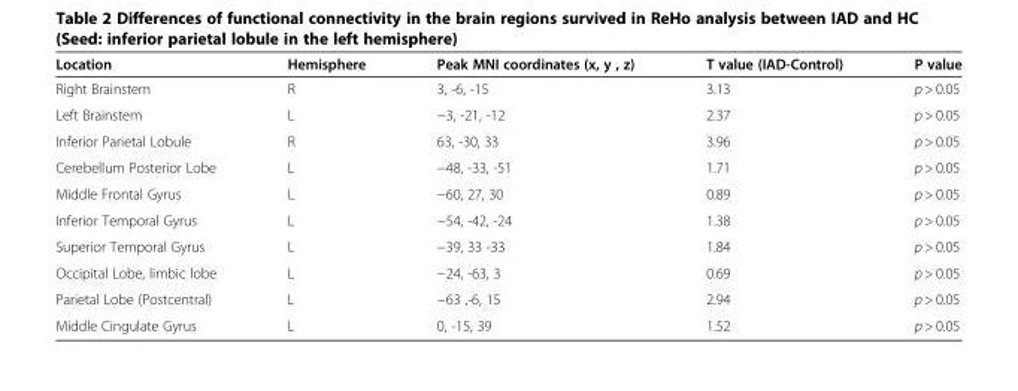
<table><thead><tr><td>Location</td><td>Hemisphere</td><td>Peak MNI coordinates (x, y , z)</td><td>T value (IAD-Control)</td><td>P value</td></tr></thead><tbody><tr><td>Right Brainstem</td><td>R</td><td>3, -6, -15</td><td>3.13</td><td>p &gt; 0.05</td></tr><tr><td>Left Brainstem</td><td>L</td><td>−3, -21, -12</td><td>2.37</td><td>p &gt; 0.05</td></tr><tr><td>Inferior Parietal Lobule</td><td>R</td><td>63, -30, 33</td><td>3.96</td><td>p &gt; 0.05</td></tr><tr><td>Cerebellum Posterior Lobe</td><td>L</td><td>−48, -33, -51</td><td>1.71</td><td>p &gt; 0.05</td></tr><tr><td>Middle Frontal Gyrus</td><td>L</td><td>−60, 27, 30</td><td>0.89</td><td>p &gt; 0.05</td></tr><tr><td>Inferior Temporal Gyrus</td><td>L</td><td>−54, -42, -24</td><td>1.38</td><td>p &gt; 0.05</td></tr><tr><td>Superior Temporal Gyrus</td><td>L</td><td>−39, 33 -33</td><td>1.84</td><td>p &gt; 0.05</td></tr><tr><td>Occipital Lobe, limbic lobe</td><td>L</td><td>−24, -63, 3</td><td>0.69</td><td>p &gt; 0.05</td></tr><tr><td>Parietal Lobe (Postcentral)</td><td>L</td><td>−63 ,-6, 15</td><td>2.94</td><td>p &gt; 0.05</td></tr><tr><td>Middle Cingulate Gyrus</td><td>L</td><td>0, -15, 39</td><td>1.52</td><td>p &gt; 0.05</td></tr></tbody></table>